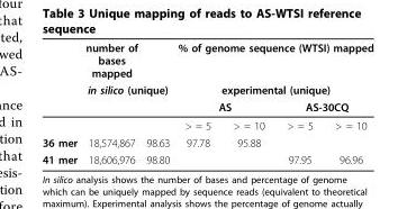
<table><thead><tr><td rowspan="4"></td><td>number of bases mapped</td><td></td><td rowspan="2" colspan="4">% of genome sequence (WTSI) mapped experimental (unique)</td></tr><tr><td colspan="2">in silico (unique)</td></tr><tr><td rowspan="2"></td><td rowspan="2"></td><td colspan="2">AS</td><td colspan="2">AS-30CQ</td></tr><tr><td>&gt; = 5</td><td>&gt; = 10</td><td>&gt; = 5</td><td>&gt; = 10</td></tr></thead><tbody><tr><td>36 mer</td><td>18,574,867</td><td>98.63</td><td>97.78</td><td>95.88</td><td></td><td></td></tr><tr><td>41 mer</td><td>18,606,976</td><td>98.80</td><td></td><td></td><td>97.95</td><td>96.96</td></tr></tbody></table>